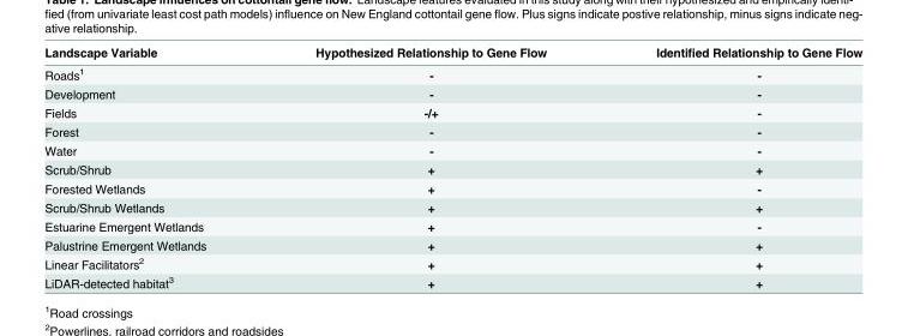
<table><thead><tr><td>Landscape Variable</td><td>Hypothesized Relationship to Gene Flow</td><td>Identified Relationship to Gene Flow</td></tr></thead><tbody><tr><td>Roads<sup>1</sup></td><td>-</td><td>-</td></tr><tr><td>Development</td><td>-</td><td>-</td></tr><tr><td>Fields</td><td>-/+</td><td>-</td></tr><tr><td>Forest</td><td>-</td><td>-</td></tr><tr><td>Water</td><td>-</td><td>-</td></tr><tr><td>Scrub/Shrub</td><td>+</td><td>+</td></tr><tr><td>Forested Wetlands</td><td>+</td><td>-</td></tr><tr><td>Scrub/Shrub Wetlands</td><td>+</td><td>+</td></tr><tr><td>Estuarine Emergent Wetlands</td><td>+</td><td>-</td></tr><tr><td>Palustrine Emergent Wetlands</td><td>+</td><td>+</td></tr><tr><td>Linear Facilitators<sup>2</sup></td><td>+</td><td>+</td></tr><tr><td>LiDAR-detected habitat<sup>3</sup></td><td>+</td><td>+</td></tr></tbody></table>